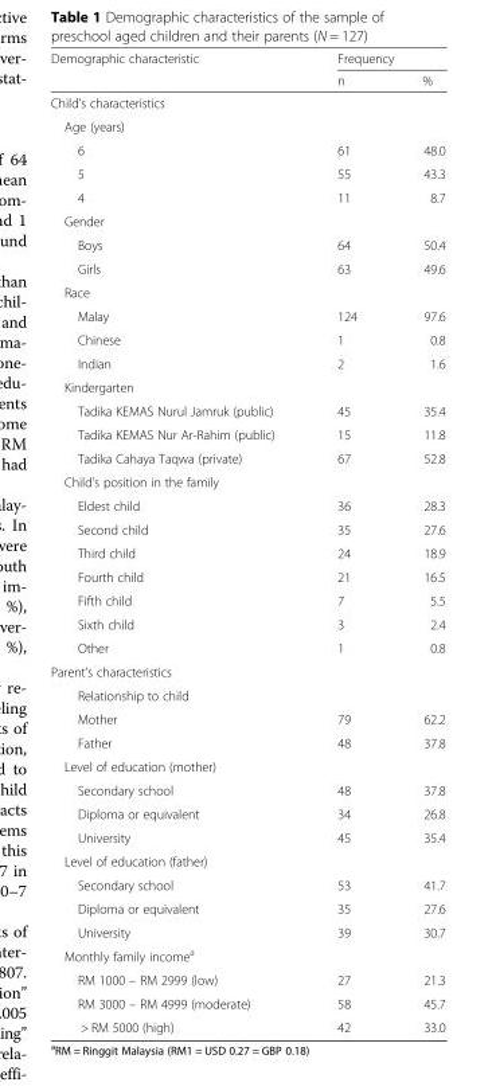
<table><thead><tr><td rowspan="2">Demographic characteristic</td><td colspan="2">Frequency</td></tr><tr><td>n</td><td>%</td></tr></thead><tbody><tr><td colspan="3">Child’s characteristics</td></tr><tr><td colspan="3">Age (years)</td></tr><tr><td>6</td><td>61</td><td>48.0</td></tr><tr><td>5</td><td>55</td><td>43.3</td></tr><tr><td>4</td><td>11</td><td>8.7</td></tr><tr><td colspan="3">Gender</td></tr><tr><td>Boys</td><td>64</td><td>50.4</td></tr><tr><td>Girls</td><td>63</td><td>49.6</td></tr><tr><td colspan="3">Race</td></tr><tr><td>Malay</td><td>124</td><td>97.6</td></tr><tr><td>Chinese</td><td>1</td><td>0.8</td></tr><tr><td>Indian</td><td>2</td><td>1.6</td></tr><tr><td colspan="3">Kindergarten</td></tr><tr><td>Tadika KEMAS Nurul Jamruk (public)</td><td>45</td><td>35.4</td></tr><tr><td>Tadika KEMAS Nur Ar-Rahim (public)</td><td>15</td><td>11.8</td></tr><tr><td>Tadika Cahaya Taqwa (private)</td><td>67</td><td>52.8</td></tr><tr><td colspan="3">Child’s position in the family</td></tr><tr><td>Eldest child</td><td>36</td><td>28.3</td></tr><tr><td>Second child</td><td>35</td><td>27.6</td></tr><tr><td>Third child</td><td>24</td><td>18.9</td></tr><tr><td>Fourth child</td><td>21</td><td>16.5</td></tr><tr><td>Fifth child</td><td>7</td><td>5.5</td></tr><tr><td>Sixth child</td><td>3</td><td>2.4</td></tr><tr><td>Other</td><td>1</td><td>0.8</td></tr><tr><td colspan="3">Parent’s characteristics</td></tr><tr><td colspan="3">Relationship to child</td></tr><tr><td>Mother</td><td>79</td><td>62.2</td></tr><tr><td>Father</td><td>48</td><td>37.8</td></tr><tr><td colspan="3">Level of education (mother)</td></tr><tr><td>Secondary school</td><td>48</td><td>37.8</td></tr><tr><td>Diploma or equivalent</td><td>34</td><td>26.8</td></tr><tr><td>University</td><td>45</td><td>35.4</td></tr><tr><td colspan="3">Level of education (father)</td></tr><tr><td>Secondary school</td><td>53</td><td>41.7</td></tr><tr><td>Diploma or equivalent</td><td>35</td><td>27.6</td></tr><tr><td>University</td><td>39</td><td>30.7</td></tr><tr><td colspan="3">Monthly family income<sup>a</sup></td></tr><tr><td>RM 1000 – RM 2999 (low)</td><td>27</td><td>21.3</td></tr><tr><td>RM 3000 – RM 4999 (moderate)</td><td>58</td><td>45.7</td></tr><tr><td>&gt; RM 5000 (high)</td><td>42</td><td>33.0</td></tr></tbody></table>